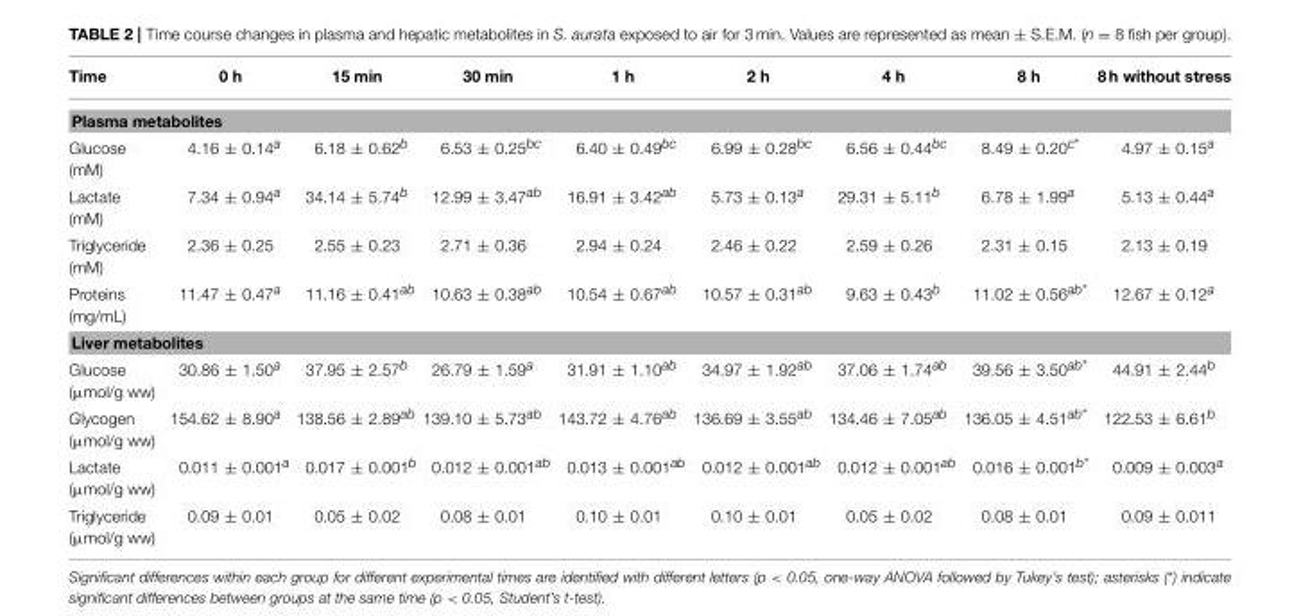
<table><thead><tr><td>Time</td><td>0 h</td><td>15 min</td><td>30 min</td><td>1 h</td><td>2 h</td><td>4 h</td><td>8 h</td><td>8 h without stress</td></tr></thead><tbody><tr><td colspan="9">Plasma metabolites</td></tr><tr><td>Glucose (mM)</td><td>4.16 ± 0.14<sup>a</sup></td><td>6.18 ± 0.62<sup>b</sup></td><td>6.53 ± 0.25<sup>bc</sup></td><td>6.40 ± 0.49<sup>bc</sup></td><td>6.99 ± 0.28<sup>bc</sup></td><td>6.56 ± 0.44<sup>bc</sup></td><td>8.49 ± 0.20<sup>c*</sup></td><td>4.97 ± 0.15<sup>a</sup></td></tr><tr><td>Lactate (mM)</td><td>7.34 ± 0.94<sup>a</sup></td><td>34.14 ± 5.74<sup>b</sup></td><td>12.99 ± 3.47<sup>ab</sup></td><td>16.91 ± 3.42<sup>ab</sup></td><td>5.73 ± 0.13<sup>a</sup></td><td>29.31 ± 5.11<sup>b</sup></td><td>6.78 ± 1.99<sup>a</sup></td><td>5.13 ± 0.44<sup>a</sup></td></tr><tr><td>Triglyceride (mM)</td><td>2.36 ± 0.25</td><td>2.55 ± 0.23</td><td>2.71 ± 0.36</td><td>2.94 ± 0.24</td><td>2.46 ± 0.22</td><td>2.59 ± 0.26</td><td>2.31 ± 0.15</td><td>2.13 ± 0.19</td></tr><tr><td>Proteins (mg/mL)</td><td>11.47 ± 0.47<sup>a</sup></td><td>11.16 ± 0.41<sup>ab</sup></td><td>10.63 ± 0.38<sup>ab</sup></td><td>10.54 ± 0.67<sup>ab</sup></td><td>10.57 ± 0.31<sup>ab</sup></td><td>9.63 ± 0.43<sup>b</sup></td><td>11.02 ± 0.56<sup>ab*</sup></td><td>12.67 ± 0.12<sup>a</sup></td></tr><tr><td colspan="9">Liver metabolites</td></tr><tr><td>Glucose (µmol/g ww)</td><td>30.86 ± 1.50<sup>a</sup></td><td>37.95 ± 2.57<sup>b</sup></td><td>26.79 ± 1.59<sup>a</sup></td><td>31.91 ± 1.10<sup>ab</sup></td><td>34.97 ± 1.92<sup>ab</sup></td><td>37.06 ± 1.74<sup>ab</sup></td><td>39.56 ± 3.50<sup>ab*</sup></td><td>44.91 ± 2.44<sup>b</sup></td></tr><tr><td>Glycogen (µmol/g ww)</td><td>154.62 ± 8.90<sup>a</sup></td><td>138.56 ± 2.89<sup>ab</sup></td><td>139.10 ± 5.73<sup>ab</sup></td><td>143.72 ± 4.76<sup>ab</sup></td><td>136.69 ± 3.55<sup>ab</sup></td><td>134.46 ± 7.05<sup>ab</sup></td><td>136.05 ± 4.51<sup>ab*</sup></td><td>122.53 ± 6.61<sup>b</sup></td></tr><tr><td>Lactate (µmol/g ww)</td><td>0.011 ± 0.001<sup>a</sup></td><td>0.017 ± 0.001<sup>b</sup></td><td>0.012 ± 0.001<sup>ab</sup></td><td>0.013 ± 0.001<sup>ab</sup></td><td>0.012 ± 0.001<sup>ab</sup></td><td>0.012 ± 0.001<sup>ab</sup></td><td>0.016 ± 0.001<sup>b*</sup></td><td>0.009 ± 0.003<sup>a</sup></td></tr><tr><td>Triglyceride (µmol/g ww)</td><td>0.09 ± 0.01</td><td>0.05 ± 0.02</td><td>0.08 ± 0.01</td><td>0.10 ± 0.01</td><td>0.10 ± 0.01</td><td>0.05 ± 0.02</td><td>0.08 ± 0.01</td><td>0.09 ± 0.011</td></tr></tbody></table>